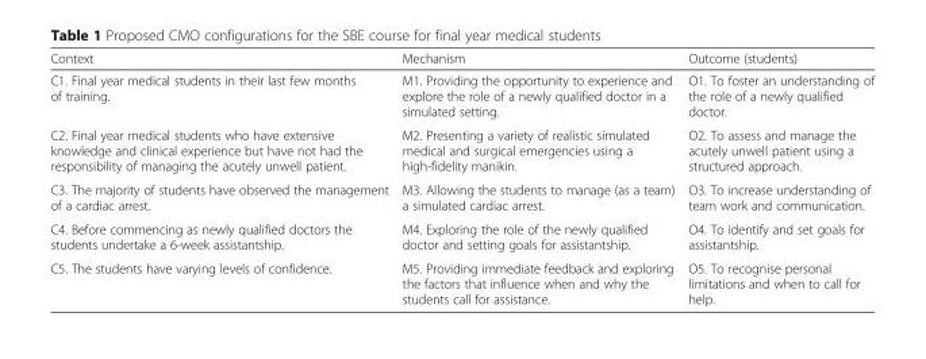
<table><thead><tr><td>Context</td><td>Mechanism</td><td>Outcome (students)</td></tr></thead><tbody><tr><td>C1. Final year medical students in their last few months of training.</td><td>M1. Providing the opportunity to experience and explore the role of a newly qualified doctor in a simulated setting.</td><td>O1. To foster an understanding of the role of a newly qualified doctor.</td></tr><tr><td>C2. Final year medical students who have extensive knowledge and clinical experience but have not had the responsibility of managing the acutely unwell patient.</td><td>M2. Presenting a variety of realistic simulated medical and surgical emergencies using a high-fidelity manikin.</td><td>O2. To assess and manage the acutely unwell patient using a structured approach.</td></tr><tr><td>C3. The majority of students have observed the management of a cardiac arrest.</td><td>M3. Allowing the students to manage (as a team) a simulated cardiac arrest.</td><td>O3. To increase understanding of team work and communication.</td></tr><tr><td>C4. Before commencing as newly qualified doctors the students undertake a 6-week assistantship.</td><td>M4. Exploring the role of the newly qualified doctor and setting goals for assistantship.</td><td>O4. To identify and set goals for assistantship.</td></tr><tr><td>C5. The students have varying levels of confidence.</td><td>M5. Providing immediate feedback and exploring the factors that influence when and why the students call for assistance.</td><td>O5. To recognise personal limitations and when to call for help.</td></tr></tbody></table>